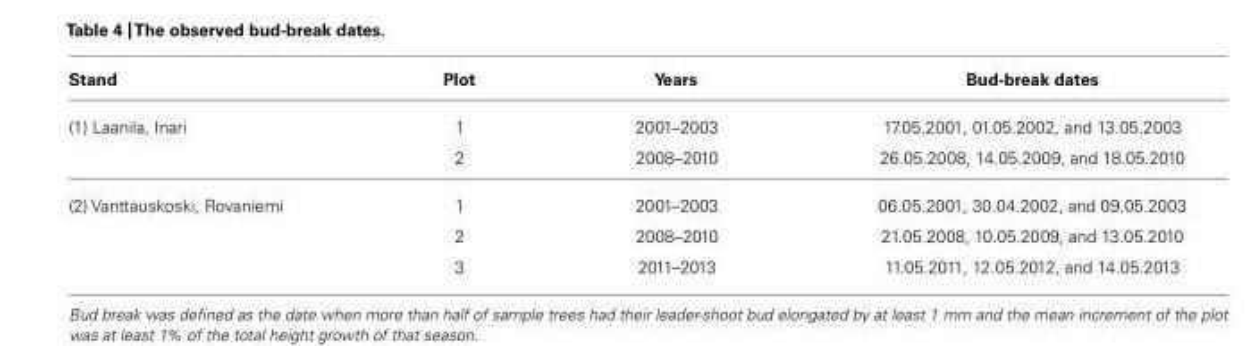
<table><thead><tr><td>Stand</td><td>Plot</td><td>Years</td><td>Bud-break dates</td></tr></thead><tbody><tr><td rowspan="2">(1) Laanila, Inari</td><td>1</td><td>2001–2003</td><td>17.05.2001, 01.05.2002, and 13.05.2003</td></tr><tr><td>2</td><td>2008–2010</td><td>26.05.2008, 14.05.2009, and 18.05.2010</td></tr><tr><td rowspan="3">(2) Vanttauskoski, Rovaniemi</td><td>1</td><td>2001–2003</td><td>06.05.2001, 30.04.2002, and 09.05.2003</td></tr><tr><td>2</td><td>2008–2010</td><td>21.05.2008, 10.05.2009, and 13.05.2010</td></tr><tr><td>3</td><td>2011–2013</td><td>11.05.2011, 12.05.2012, and 14.05.2013</td></tr></tbody></table>